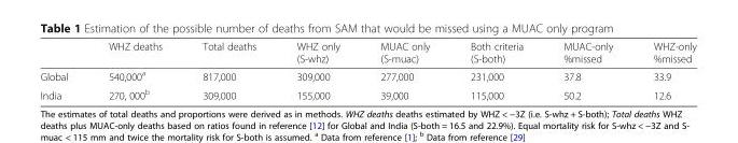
<table><thead><tr><td></td><td>WHZ deaths</td><td>Total deaths</td><td>WHZ only (S-whz)</td><td>MUAC only (S-muac)</td><td>Both criteria (S-both)</td><td>MUAC-only %missed</td><td>WHZ-only %missed</td></tr></thead><tbody><tr><td>Global</td><td>540,000<sup>a</sup></td><td>817,000</td><td>309,000</td><td>277,000</td><td>231,000</td><td>37.8</td><td>33.9</td></tr><tr><td>India</td><td>270, 000<sup>b</sup></td><td>309,000</td><td>155,000</td><td>39,000</td><td>115,000</td><td>50.2</td><td>12.6</td></tr></tbody></table>